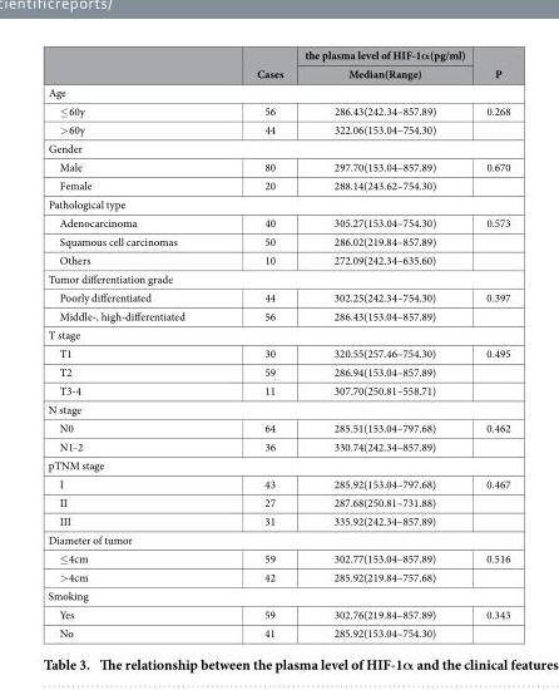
<table><thead><tr><td rowspan="2"></td><td rowspan="2">Cases</td><td rowspan="2">the plasma level of HIF-1α(pg/ml) Median(Range)</td><td rowspan="2">P</td></tr><tr></tr></thead><tbody><tr><td colspan="4">Age</td></tr><tr><td>≤ 60y</td><td>56</td><td>286.43(242.34–857.89)</td><td>0.268</td></tr><tr><td>&gt; 60y</td><td>44</td><td>322.06(153.04–754.30)</td><td></td></tr><tr><td colspan="4">Gender</td></tr><tr><td>Male</td><td>80</td><td>297.70(153.04–857.89)</td><td>0.670</td></tr><tr><td>Female</td><td>20</td><td>288.14(243.62–754.30)</td><td></td></tr><tr><td colspan="4">Pathological type</td></tr><tr><td>Adenocarcinoma</td><td>40</td><td>305.27(153.04–754.30)</td><td>0.573</td></tr><tr><td>Squamous cell carcinomas</td><td>50</td><td>286.02(219.84–857.89)</td><td></td></tr><tr><td>Others</td><td>10</td><td>272.09(242.34–635.60)</td><td></td></tr><tr><td colspan="4">Tumor differentiation grade</td></tr><tr><td>Poorly differentiated</td><td>44</td><td>302.25(242.34–754.30)</td><td>0.397</td></tr><tr><td>Middle-, high-differentiated</td><td>56</td><td>286.43(153.04–857.89)</td><td></td></tr><tr><td colspan="4">T stage</td></tr><tr><td>T1</td><td>30</td><td>320.55(257.46–754.30)</td><td>0.495</td></tr><tr><td>T2</td><td>59</td><td>286.94(153.04–857.89)</td><td></td></tr><tr><td>T3-4</td><td>11</td><td>307.70(250.81–558.71)</td><td></td></tr><tr><td colspan="4">N stage</td></tr><tr><td>N0</td><td>64</td><td>285.51(153.04–797.68)</td><td>0.462</td></tr><tr><td>N1-2</td><td>36</td><td>330.74(242.34–857.89)</td><td></td></tr><tr><td colspan="4">pTNM stage</td></tr><tr><td>I</td><td>43</td><td>285.92(153.04–797.68)</td><td>0.467</td></tr><tr><td>II</td><td>27</td><td>287.68(250.81–731.88)</td><td></td></tr><tr><td>III</td><td>31</td><td>335.92(242.34–857.89)</td><td></td></tr><tr><td colspan="4">Diameter of tumor</td></tr><tr><td>≤ 4cm</td><td>59</td><td>302.77(153.04–857.89)</td><td>0.516</td></tr><tr><td>&gt; 4cm</td><td>42</td><td>285.92(219.84–757.68)</td><td></td></tr><tr><td colspan="4">Smoking</td></tr><tr><td>Yes</td><td>59</td><td>302.76(219.84–857.89)</td><td>0.343</td></tr><tr><td>No</td><td>41</td><td>285.92(153.04–754.30)</td><td></td></tr></tbody></table>